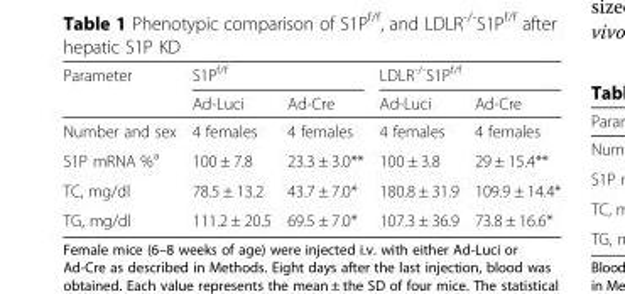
<table><thead><tr><td rowspan="2">Parameter</td><td colspan="2">S1P<sup>f/f</sup></td><td colspan="2">LDLR<sup>-/-</sup>S1P<sup>f/f</sup></td></tr><tr><td>Ad-Luci</td><td>Ad-Cre</td><td>Ad-Luci</td><td>Ad-Cre</td></tr></thead><tbody><tr><td>Number and sex</td><td>4 females</td><td>4 females</td><td>4 females</td><td>4 females</td></tr><tr><td>S1P mRNA %<sup>a</sup></td><td>100 ± 7.8</td><td>23.3 ± 3.0**</td><td>100 ± 3.8</td><td>29 ± 15.4**</td></tr><tr><td>TC, mg/dl</td><td>78.5 ± 13.2</td><td>43.7 ± 7.0*</td><td>180.8 ± 31.9</td><td>109.9 ± 14.4*</td></tr><tr><td>TG, mg/dl</td><td>111.2 ± 20.5</td><td>69.5 ± 7.0*</td><td>107.3 ± 36.9</td><td>73.8 ± 16.6*</td></tr></tbody></table>